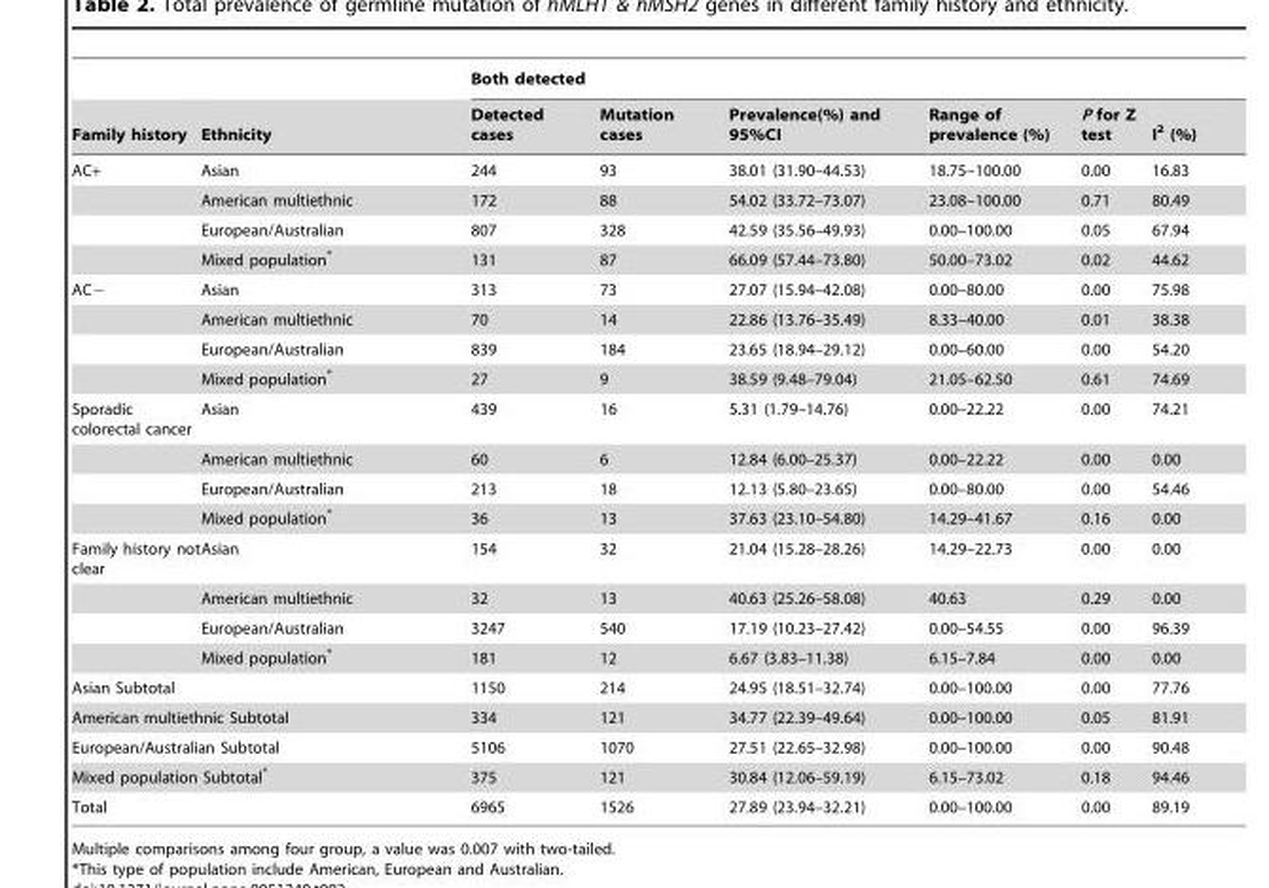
<table><thead><tr><td rowspan="2">Family history</td><td rowspan="2">Ethnicity</td><td colspan="6">Both detected</td></tr><tr><td>Detected cases</td><td>Mutation cases</td><td>Prevalence(%) and 95%CI</td><td>Range of prevalence (%)</td><td>P for Z test</td><td>I<sup>2</sup> (%)</td></tr></thead><tbody><tr><td rowspan="4">AC+</td><td>Asian</td><td>244</td><td>93</td><td>38.01 (31.90–44.53)</td><td>18.75–100.00</td><td>0.00</td><td>16.83</td></tr><tr><td>American multiethnic</td><td>172</td><td>88</td><td>54.02 (33.72–73.07)</td><td>23.08–100.00</td><td>0.71</td><td>80.49</td></tr><tr><td>European/Australian</td><td>807</td><td>328</td><td>42.59 (35.56–49.93)</td><td>0.00–100.00</td><td>0.05</td><td>67.94</td></tr><tr><td>Mixed population*</td><td>131</td><td>87</td><td>66.09 (57.44–73.80)</td><td>50.00–73.02</td><td>0.02</td><td>44.62</td></tr><tr><td rowspan="4">AC−</td><td>Asian</td><td>313</td><td>73</td><td>27.07 (15.94–42.08)</td><td>0.00–80.00</td><td>0.00</td><td>75.98</td></tr><tr><td>American multiethnic</td><td>70</td><td>14</td><td>22.86 (13.76–35.49)</td><td>8.33–40.00</td><td>0.01</td><td>38.38</td></tr><tr><td>European/Australian</td><td>839</td><td>184</td><td>23.65 (18.94–29.12)</td><td>0.00–60.00</td><td>0.00</td><td>54.20</td></tr><tr><td>Mixed population*</td><td>27</td><td>9</td><td>38.59 (9.48–79.04)</td><td>21.05–62.50</td><td>0.61</td><td>74.69</td></tr><tr><td rowspan="4">Sporadic colorectal cancer</td><td>Asian</td><td>439</td><td>16</td><td>5.31 (1.79–14.76)</td><td>0.00–22.22</td><td>0.00</td><td>74.21</td></tr><tr><td>American multiethnic</td><td>60</td><td>6</td><td>12.84 (6.00–25.37)</td><td>0.00–22.22</td><td>0.00</td><td>0.00</td></tr><tr><td>European/Australian</td><td>213</td><td>18</td><td>12.13 (5.80–23.65)</td><td>0.00–80.00</td><td>0.00</td><td>54.46</td></tr><tr><td>Mixed population*</td><td>36</td><td>13</td><td>37.63 (23.10–54.80)</td><td>14.29–41.67</td><td>0.16</td><td>0.00</td></tr><tr><td rowspan="4">Family history not clear</td><td>Asian</td><td>154</td><td>32</td><td>21.04 (15.28–28.26)</td><td>14.29–22.73</td><td>0.00</td><td>0.00</td></tr><tr><td>American multiethnic</td><td>32</td><td>13</td><td>40.63 (25.26–58.08)</td><td>40.63</td><td>0.29</td><td>0.00</td></tr><tr><td>European/Australian</td><td>3247</td><td>540</td><td>17.19 (10.23–27.42)</td><td>0.00–54.55</td><td>0.00</td><td>96.39</td></tr><tr><td>Mixed population*</td><td>181</td><td>12</td><td>6.67 (3.83–11.38)</td><td>6.15–7.84</td><td>0.00</td><td>0.00</td></tr><tr><td colspan="2">Asian Subtotal</td><td>1150</td><td>214</td><td>24.95 (18.51–32.74)</td><td>0.00–100.00</td><td>0.00</td><td>77.76</td></tr><tr><td colspan="2">American multiethnic Subtotal</td><td>334</td><td>121</td><td>34.77 (22.39–49.64)</td><td>0.00–100.00</td><td>0.05</td><td>81.91</td></tr><tr><td colspan="2">European/Australian Subtotal</td><td>5106</td><td>1070</td><td>27.51 (22.65–32.98)</td><td>0.00–100.00</td><td>0.00</td><td>90.48</td></tr><tr><td colspan="2">Mixed population Subtotal*</td><td>375</td><td>121</td><td>30.84 (12.06–59.19)</td><td>6.15–73.02</td><td>0.18</td><td>94.46</td></tr><tr><td colspan="2">Total</td><td>6965</td><td>1526</td><td>27.89 (23.94–32.21)</td><td>0.00–100.00</td><td>0.00</td><td>89.19</td></tr></tbody></table>